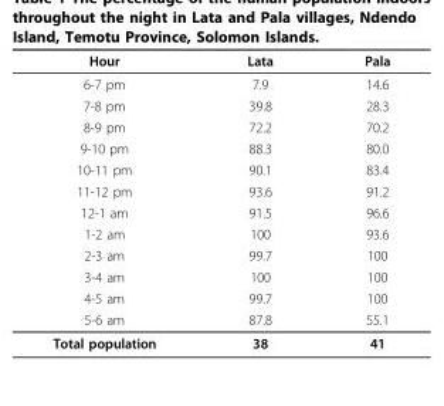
<table><thead><tr><td>Hour</td><td>Lata</td><td>Pala</td></tr></thead><tbody><tr><td>6-7 pm</td><td>7.9</td><td>14.6</td></tr><tr><td>7-8 pm</td><td>39.8</td><td>28.3</td></tr><tr><td>8-9 pm</td><td>72.2</td><td>70.2</td></tr><tr><td>9-10 pm</td><td>88.3</td><td>80.0</td></tr><tr><td>10-11 pm</td><td>90.1</td><td>83.4</td></tr><tr><td>11-12 pm</td><td>93.6</td><td>91.2</td></tr><tr><td>12-1 am</td><td>91.5</td><td>96.6</td></tr><tr><td>1-2 am</td><td>100</td><td>93.6</td></tr><tr><td>2-3 am</td><td>99.7</td><td>100</td></tr><tr><td>3-4 am</td><td>100</td><td>100</td></tr><tr><td>4-5 am</td><td>99.7</td><td>100</td></tr><tr><td>5-6 am</td><td>87.8</td><td>55.1</td></tr><tr><td>Total population</td><td>38</td><td>41</td></tr></tbody></table>